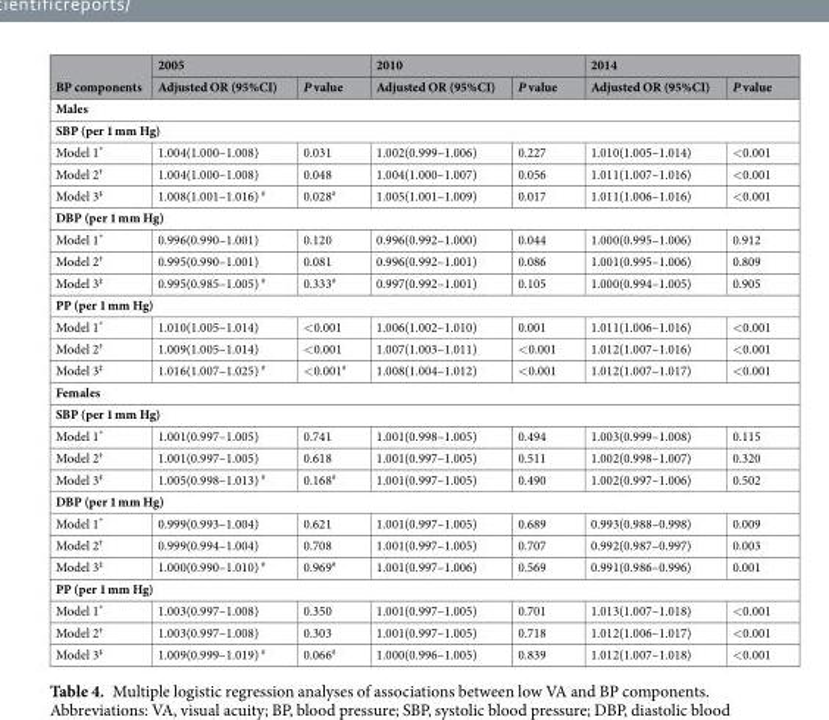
<table><thead><tr><td rowspan="2">BP components</td><td colspan="2">2005</td><td colspan="2">2010</td><td colspan="2">2014</td></tr><tr><td>Adjusted OR (95%CI)</td><td>P value</td><td>Adjusted OR (95%CI)</td><td>P value</td><td>Adjusted OR (95%CI)</td><td>P value</td></tr></thead><tbody><tr><td colspan="7">Males</td></tr><tr><td colspan="7">SBP (per 1 mm Hg)</td></tr><tr><td>Model 1*</td><td>1.004(1.000–1.008)</td><td>0.031</td><td>1.002(0.999–1.006)</td><td>0.227</td><td>1.010(1.005–1.014)</td><td>&lt;0.001</td></tr><tr><td>Model 2<sup>†</sup></td><td>1.004(1.000–1.008)</td><td>0.048</td><td>1.004(1.000–1.007)</td><td>0.056</td><td>1.011(1.007–1.016)</td><td>&lt;0.001</td></tr><tr><td>Model 3<sup>‡</sup></td><td>1.008(1.001–1.016) <sup>#</sup></td><td>0.028<sup>#</sup></td><td>1.005(1.001–1.009)</td><td>0.017</td><td>1.011(1.006–1.016)</td><td>&lt;0.001</td></tr><tr><td colspan="7">DBP (per 1 mm Hg)</td></tr><tr><td>Model 1*</td><td>0.996(0.990–1.001)</td><td>0.120</td><td>0.996(0.992–1.000)</td><td>0.044</td><td>1.000(0.995–1.006)</td><td>0.912</td></tr><tr><td>Model 2<sup>†</sup></td><td>0.995(0.990–1.001)</td><td>0.081</td><td>0.996(0.992–1.001)</td><td>0.086</td><td>1.001(0.995–1.006)</td><td>0.809</td></tr><tr><td>Model 3<sup>‡</sup></td><td>0.995(0.985–1.005) <sup>#</sup></td><td>0.333<sup>#</sup></td><td>0.997(0.992–1.001)</td><td>0.105</td><td>1.000(0.994–1.005)</td><td>0.905</td></tr><tr><td colspan="7">PP (per 1 mm Hg)</td></tr><tr><td>Model 1*</td><td>1.010(1.005–1.014)</td><td>&lt;0.001</td><td>1.006(1.002–1.010)</td><td>0.001</td><td>1.011(1.006–1.016)</td><td>&lt;0.001</td></tr><tr><td>Model 2<sup>†</sup></td><td>1.009(1.005–1.014)</td><td>&lt;0.001</td><td>1.007(1.003–1.011)</td><td>&lt;0.001</td><td>1.012(1.007–1.016)</td><td>&lt;0.001</td></tr><tr><td>Model 3<sup>‡</sup></td><td>1.016(1.007–1.025) <sup>#</sup></td><td>&lt;0.001<sup>#</sup></td><td>1.008(1.004–1.012)</td><td>&lt;0.001</td><td>1.012(1.007–1.017)</td><td>&lt;0.001</td></tr><tr><td colspan="7">Females</td></tr><tr><td colspan="7">SBP (per 1 mm Hg)</td></tr><tr><td>Model 1*</td><td>1.001(0.997–1.005)</td><td>0.741</td><td>1.001(0.998–1.005)</td><td>0.494</td><td>1.003(0.999–1.008)</td><td>0.115</td></tr><tr><td>Model 2<sup>†</sup></td><td>1.001(0.997–1.005)</td><td>0.618</td><td>1.001(0.997–1.005)</td><td>0.511</td><td>1.002(0.998–1.007)</td><td>0.320</td></tr><tr><td>Model 3<sup>‡</sup></td><td>1.005(0.998–1.013) <sup>#</sup></td><td>0.168<sup>#</sup></td><td>1.001(0.997–1.005)</td><td>0.490</td><td>1.002(0.997–1.006)</td><td>0.502</td></tr><tr><td colspan="7">DBP (per 1 mm Hg)</td></tr><tr><td>Model 1*</td><td>0.999(0.993–1.004)</td><td>0.621</td><td>1.001(0.997–1.005)</td><td>0.689</td><td>0.993(0.988–0.998)</td><td>0.009</td></tr><tr><td>Model 2<sup>†</sup></td><td>0.999(0.994–1.004)</td><td>0.708</td><td>1.001(0.997–1.005)</td><td>0.707</td><td>0.992(0.987–0.997)</td><td>0.003</td></tr><tr><td>Model 3<sup>‡</sup></td><td>1.000(0.990–1.010) <sup>#</sup></td><td>0.969<sup>#</sup></td><td>1.001(0.997–1.006)</td><td>0.569</td><td>0.991(0.986–0.996)</td><td>0.001</td></tr><tr><td colspan="7">PP (per 1 mm Hg)</td></tr><tr><td>Model 1*</td><td>1.003(0.997–1.008)</td><td>0.350</td><td>1.001(0.997–1.005)</td><td>0.701</td><td>1.013(1.007–1.018)</td><td>&lt;0.001</td></tr><tr><td>Model 2<sup>†</sup></td><td>1.003(0.997–1.008)</td><td>0.303</td><td>1.001(0.997–1.005)</td><td>0.718</td><td>1.012(1.006–1.017)</td><td>&lt;0.001</td></tr><tr><td>Model 3<sup>‡</sup></td><td>1.009(0.999–1.019) <sup>#</sup></td><td>0.066<sup>#</sup></td><td>1.000(0.996–1.005)</td><td>0.839</td><td>1.012(1.007–1.018)</td><td>&lt;0.001</td></tr></tbody></table>